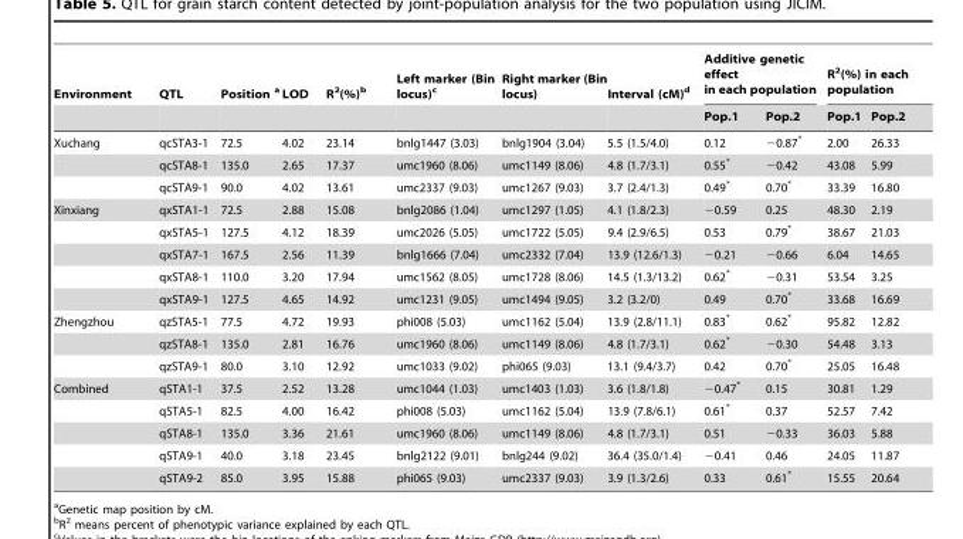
<table><thead><tr><td rowspan="2">Environment</td><td rowspan="2">QTL</td><td rowspan="2">Position a</td><td rowspan="2">LOD</td><td rowspan="2">R<sup>2</sup>(%)<sup>b</sup></td><td rowspan="2">Left marker (Bin locus)<sup>c</sup></td><td rowspan="2">Right marker (Bin locus)</td><td rowspan="2">Interval (cM)<sup>d</sup></td><td colspan="2">Additive genetic effect in each population</td><td colspan="2">R<sup>2</sup>(%) in each population</td></tr><tr><td>Pop.1</td><td>Pop.2</td><td>Pop.1</td><td>Pop.2</td></tr></thead><tbody><tr><td rowspan="3">Xuchang</td><td>qcSTA3-1</td><td>72.5</td><td>4.02</td><td>23.14</td><td>bnlg1447 (3.03)</td><td>bnlg1904 (3.04)</td><td>5.5 (1.5/4.0)</td><td>0.12</td><td>−0.87*</td><td>2.00</td><td>26.33</td></tr><tr><td>qcSTA8-1</td><td>135.0</td><td>2.65</td><td>17.37</td><td>umc1960 (8.06)</td><td>umc1149 (8.06)</td><td>4.8 (1.7/3.1)</td><td>0.55*</td><td>−0.42</td><td>43.08</td><td>5.99</td></tr><tr><td>qcSTA9-1</td><td>90.0</td><td>4.02</td><td>13.61</td><td>umc2337 (9.03)</td><td>umc1267 (9.03)</td><td>3.7 (2.4/1.3)</td><td>0.49*</td><td>0.70*</td><td>33.39</td><td>16.80</td></tr><tr><td rowspan="5">Xinxiang</td><td>qxSTA1-1</td><td>72.5</td><td>2.88</td><td>15.08</td><td>bnlg2086 (1.04)</td><td>umc1297 (1.05)</td><td>4.1 (1.8/2.3)</td><td>−0.59</td><td>0.25</td><td>48.30</td><td>2.19</td></tr><tr><td>qxSTA5-1</td><td>127.5</td><td>4.12</td><td>18.39</td><td>umc2026 (5.05)</td><td>umc1722 (5.05)</td><td>9.4 (2.9/6.5)</td><td>0.53</td><td>0.79*</td><td>38.67</td><td>21.03</td></tr><tr><td>qxSTA7-1</td><td>167.5</td><td>2.56</td><td>11.39</td><td>bnlg1666 (7.04)</td><td>umc2332 (7.04)</td><td>13.9 (12.6/1.3)</td><td>−0.21</td><td>−0.66</td><td>6.04</td><td>14.65</td></tr><tr><td>qxSTA8-1</td><td>110.0</td><td>3.20</td><td>17.94</td><td>umc1562 (8.05)</td><td>umc1728 (8.06)</td><td>14.5 (1.3/13.2)</td><td>0.62*</td><td>−0.31</td><td>53.54</td><td>3.25</td></tr><tr><td>qxSTA9-1</td><td>127.5</td><td>4.65</td><td>14.92</td><td>umc1231 (9.05)</td><td>umc1494 (9.05)</td><td>3.2 (3.2/0)</td><td>0.49</td><td>0.70*</td><td>33.68</td><td>16.69</td></tr><tr><td rowspan="3">Zhengzhou</td><td>qzSTA5-1</td><td>77.5</td><td>4.72</td><td>19.93</td><td>phi008 (5.03)</td><td>umc1162 (5.04)</td><td>13.9 (2.8/11.1)</td><td>0.83*</td><td>0.62*</td><td>95.82</td><td>12.82</td></tr><tr><td>qzSTA8-1</td><td>135.0</td><td>2.81</td><td>16.76</td><td>umc1960 (8.06)</td><td>umc1149 (8.06)</td><td>4.8 (1.7/3.1)</td><td>0.62*</td><td>−0.30</td><td>54.48</td><td>3.13</td></tr><tr><td>qzSTA9-1</td><td>80.0</td><td>3.10</td><td>12.92</td><td>umc1033 (9.02)</td><td>phi065 (9.03)</td><td>13.1 (9.4/3.7)</td><td>0.42</td><td>0.70*</td><td>25.05</td><td>16.48</td></tr><tr><td rowspan="5">Combined</td><td>qSTA1-1</td><td>37.5</td><td>2.52</td><td>13.28</td><td>umc1044 (1.03)</td><td>umc1403 (1.03)</td><td>3.6 (1.8/1.8)</td><td>−0.47*</td><td>0.15</td><td>30.81</td><td>1.29</td></tr><tr><td>qSTA5-1</td><td>82.5</td><td>4.00</td><td>16.42</td><td>phi008 (5.03)</td><td>umc1162 (5.04)</td><td>13.9 (7.8/6.1)</td><td>0.61*</td><td>0.37</td><td>52.57</td><td>7.42</td></tr><tr><td>qSTA8-1</td><td>135.0</td><td>3.36</td><td>21.61</td><td>umc1960 (8.06)</td><td>umc1149 (8.06)</td><td>4.8 (1.7/3.1)</td><td>0.51</td><td>−0.33</td><td>36.03</td><td>5.88</td></tr><tr><td>qSTA9-1</td><td>40.0</td><td>3.18</td><td>23.45</td><td>bnlg2122 (9.01)</td><td>bnlg244 (9.02)</td><td>36.4 (35.0/1.4)</td><td>−0.41</td><td>0.46</td><td>24.05</td><td>11.87</td></tr><tr><td>qSTA9-2</td><td>85.0</td><td>3.95</td><td>15.88</td><td>phi065 (9.03)</td><td>umc2337 (9.03)</td><td>3.9 (1.3/2.6)</td><td>0.33</td><td>0.61*</td><td>15.55</td><td>20.64</td></tr></tbody></table>